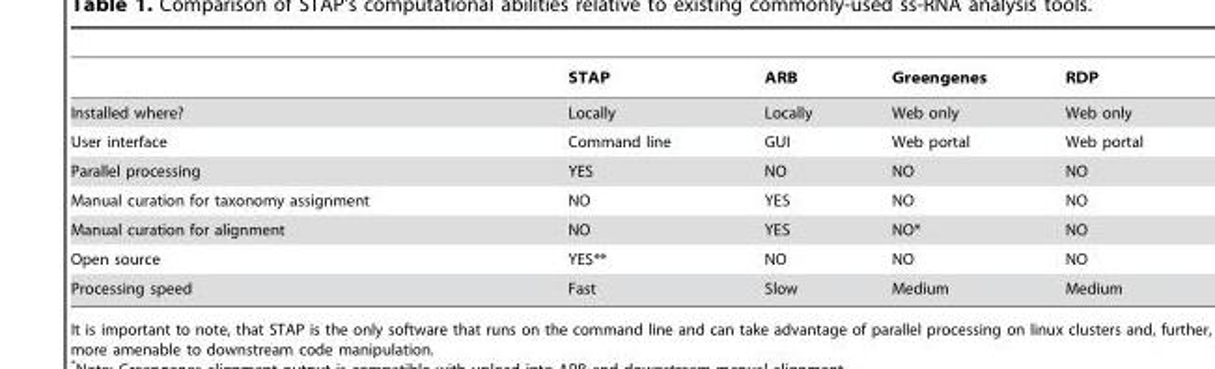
<table><thead><tr><td></td><td>STAP</td><td>ARB</td><td>Greengenes</td><td>RDP</td></tr></thead><tbody><tr><td>Installed where?</td><td>Locally</td><td>Locally</td><td>Web only</td><td>Web only</td></tr><tr><td>User interface</td><td>Command line</td><td>GUI</td><td>Web portal</td><td>Web portal</td></tr><tr><td>Parallel processing</td><td>YES</td><td>NO</td><td>NO</td><td>NO</td></tr><tr><td>Manual curation for taxonomy assignment</td><td>NO</td><td>YES</td><td>NO</td><td>NO</td></tr><tr><td>Manual curation for alignment</td><td>NO</td><td>YES</td><td>NO*</td><td>NO</td></tr><tr><td>Open source</td><td>YES**</td><td>NO</td><td>NO</td><td>NO</td></tr><tr><td>Processing speed</td><td>Fast</td><td>Slow</td><td>Medium</td><td>Medium</td></tr></tbody></table>